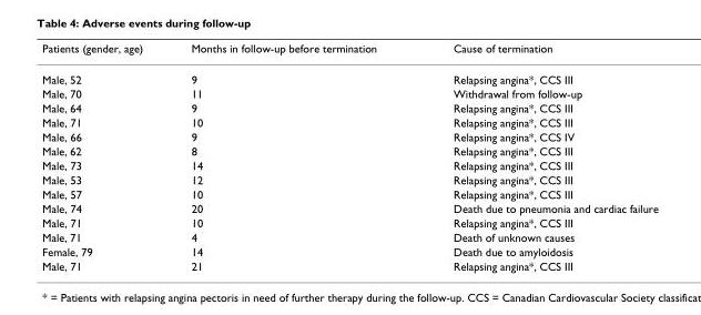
<table><thead><tr><td>Patients (gender, age)</td><td>Months in follow-up before termination</td><td>Cause of termination</td></tr></thead><tbody><tr><td>Male, 52</td><td>9</td><td>Relapsing angina*, CCS III</td></tr><tr><td>Male, 70</td><td>11</td><td>Withdrawal from follow-up</td></tr><tr><td>Male, 64</td><td>9</td><td>Relapsing angina*, CCS III</td></tr><tr><td>Male, 71</td><td>10</td><td>Relapsing angina*, CCS III</td></tr><tr><td>Male, 66</td><td>9</td><td>Relapsing angina*, CCS IV</td></tr><tr><td>Male, 62</td><td>8</td><td>Relapsing angina*, CCS III</td></tr><tr><td>Male, 73</td><td>14</td><td>Relapsing angina*, CCS III</td></tr><tr><td>Male, 53</td><td>12</td><td>Relapsing angina*, CCS III</td></tr><tr><td>Male, 57</td><td>10</td><td>Relapsing angina*, CCS III</td></tr><tr><td>Male, 74</td><td>20</td><td>Death due to pneumonia and cardiac failure</td></tr><tr><td>Male, 71</td><td>10</td><td>Relapsing angina*, CCS III</td></tr><tr><td>Male, 71</td><td>4</td><td>Death of unknown causes</td></tr><tr><td>Female, 79</td><td>14</td><td>Death due to amyloidosis</td></tr><tr><td>Male, 71</td><td>21</td><td>Relapsing angina*, CCS III</td></tr></tbody></table>